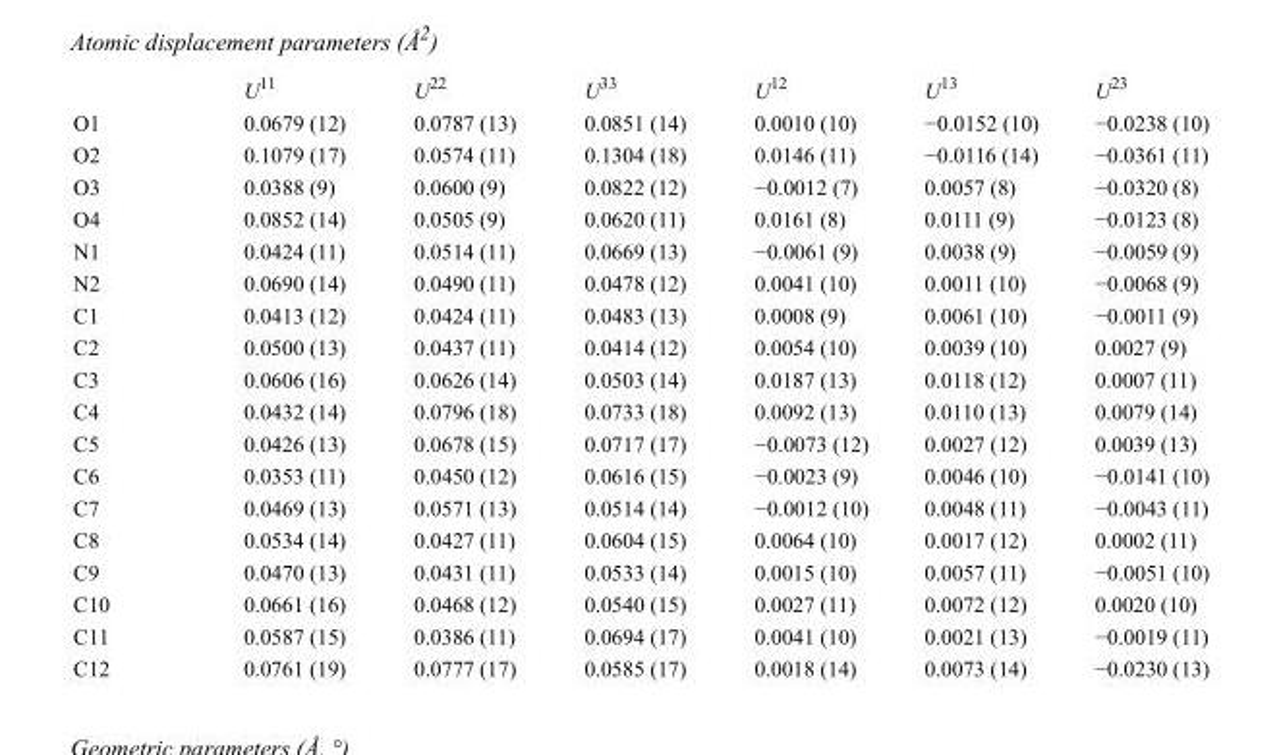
<table><thead><tr><td></td><td>U<sup>11</sup></td><td>U<sup>22</sup></td><td>U<sup>33</sup></td><td>U<sup>12</sup></td><td>U<sup>13</sup></td><td>U<sup>23</sup></td></tr></thead><tbody><tr><td>O1</td><td>0.0679 (12)</td><td>0.0787 (13)</td><td>0.0851 (14)</td><td>0.0010 (10)</td><td>−0.0152 (10)</td><td>−0.0238 (10)</td></tr><tr><td>O2</td><td>0.1079 (17)</td><td>0.0574 (11)</td><td>0.1304 (18)</td><td>0.0146 (11)</td><td>−0.0116 (14)</td><td>−0.0361 (11)</td></tr><tr><td>O3</td><td>0.0388 (9)</td><td>0.0600 (9)</td><td>0.0822 (12)</td><td>−0.0012 (7)</td><td>0.0057 (8)</td><td>−0.0320 (8)</td></tr><tr><td>O4</td><td>0.0852 (14)</td><td>0.0505 (9)</td><td>0.0620 (11)</td><td>0.0161 (8)</td><td>0.0111 (9)</td><td>−0.0123 (8)</td></tr><tr><td>N1</td><td>0.0424 (11)</td><td>0.0514 (11)</td><td>0.0669 (13)</td><td>−0.0061 (9)</td><td>0.0038 (9)</td><td>−0.0059 (9)</td></tr><tr><td>N2</td><td>0.0690 (14)</td><td>0.0490 (11)</td><td>0.0478 (12)</td><td>0.0041 (10)</td><td>0.0011 (10)</td><td>−0.0068 (9)</td></tr><tr><td>C1</td><td>0.0413 (12)</td><td>0.0424 (11)</td><td>0.0483 (13)</td><td>0.0008 (9)</td><td>0.0061 (10)</td><td>−0.0011 (9)</td></tr><tr><td>C2</td><td>0.0500 (13)</td><td>0.0437 (11)</td><td>0.0414 (12)</td><td>0.0054 (10)</td><td>0.0039 (10)</td><td>0.0027 (9)</td></tr><tr><td>C3</td><td>0.0606 (16)</td><td>0.0626 (14)</td><td>0.0503 (14)</td><td>0.0187 (13)</td><td>0.0118 (12)</td><td>0.0007 (11)</td></tr><tr><td>C4</td><td>0.0432 (14)</td><td>0.0796 (18)</td><td>0.0733 (18)</td><td>0.0092 (13)</td><td>0.0110 (13)</td><td>0.0079 (14)</td></tr><tr><td>C5</td><td>0.0426 (13)</td><td>0.0678 (15)</td><td>0.0717 (17)</td><td>−0.0073 (12)</td><td>0.0027 (12)</td><td>0.0039 (13)</td></tr><tr><td>C6</td><td>0.0353 (11)</td><td>0.0450 (12)</td><td>0.0616 (15)</td><td>−0.0023 (9)</td><td>0.0046 (10)</td><td>−0.0141 (10)</td></tr><tr><td>C7</td><td>0.0469 (13)</td><td>0.0571 (13)</td><td>0.0514 (14)</td><td>−0.0012 (10)</td><td>0.0048 (11)</td><td>−0.0043 (11)</td></tr><tr><td>C8</td><td>0.0534 (14)</td><td>0.0427 (11)</td><td>0.0604 (15)</td><td>0.0064 (10)</td><td>0.0017 (12)</td><td>0.0002 (11)</td></tr><tr><td>C9</td><td>0.0470 (13)</td><td>0.0431 (11)</td><td>0.0533 (14)</td><td>0.0015 (10)</td><td>0.0057 (11)</td><td>−0.0051 (10)</td></tr><tr><td>C10</td><td>0.0661 (16)</td><td>0.0468 (12)</td><td>0.0540 (15)</td><td>0.0027 (11)</td><td>0.0072 (12)</td><td>0.0020 (10)</td></tr><tr><td>C11</td><td>0.0587 (15)</td><td>0.0386 (11)</td><td>0.0694 (17)</td><td>0.0041 (10)</td><td>0.0021 (13)</td><td>−0.0019 (11)</td></tr><tr><td>C12</td><td>0.0761 (19)</td><td>0.0777 (17)</td><td>0.0585 (17)</td><td>0.0018 (14)</td><td>0.0073 (14)</td><td>−0.0230 (13)</td></tr></tbody></table>